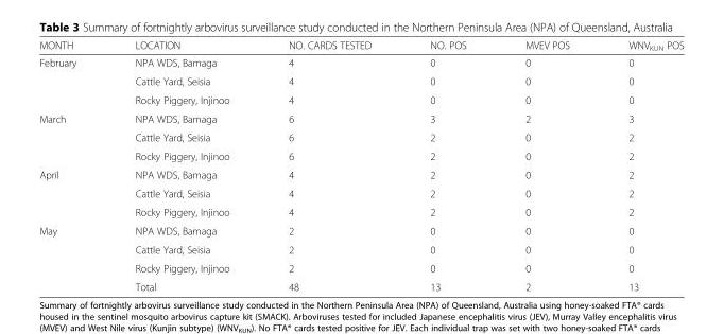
<table><thead><tr><td>MONTH</td><td>LOCATION</td><td>NO. CARDS TESTED</td><td>NO. POS</td><td>MVEV POS</td><td>WNV<sub>KUN</sub> POS</td></tr></thead><tbody><tr><td rowspan="3">February</td><td>NPA WDS, Bamaga</td><td>4</td><td>0</td><td>0</td><td>0</td></tr><tr><td>Cattle Yard, Seisia</td><td>4</td><td>0</td><td>0</td><td>0</td></tr><tr><td>Rocky Piggery, Injinoo</td><td>4</td><td>0</td><td>0</td><td>0</td></tr><tr><td rowspan="3">March</td><td>NPA WDS, Bamaga</td><td>6</td><td>3</td><td>2</td><td>3</td></tr><tr><td>Cattle Yard, Seisia</td><td>6</td><td>2</td><td>0</td><td>2</td></tr><tr><td>Rocky Piggery, Injinoo</td><td>6</td><td>2</td><td>0</td><td>2</td></tr><tr><td rowspan="3">April</td><td>NPA WDS, Bamaga</td><td>4</td><td>2</td><td>0</td><td>2</td></tr><tr><td>Cattle Yard, Seisia</td><td>4</td><td>2</td><td>0</td><td>2</td></tr><tr><td>Rocky Piggery, Injinoo</td><td>4</td><td>2</td><td>0</td><td>2</td></tr><tr><td rowspan="4">May</td><td>NPA WDS, Bamaga</td><td>2</td><td>0</td><td>0</td><td>0</td></tr><tr><td>Cattle Yard, Seisia</td><td>2</td><td>0</td><td>0</td><td>0</td></tr><tr><td>Rocky Piggery, Injinoo</td><td>2</td><td>0</td><td>0</td><td>0</td></tr><tr><td>Total</td><td>48</td><td>13</td><td>2</td><td>13</td></tr></tbody></table>